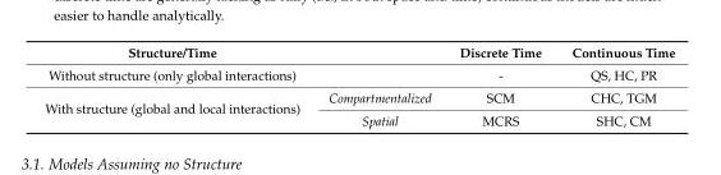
<table><thead><tr><td>Structure/Time</td><td></td><td>Discrete Time</td><td>Continuous Time</td></tr></thead><tbody><tr><td>Without structure (only global interactions)</td><td></td><td>-</td><td>QS, HC, PR</td></tr><tr><td rowspan="2">With structure (global and local interactions)</td><td>Compartmentalized</td><td>SCM</td><td>CHC, TGM</td></tr><tr><td>Spatial</td><td>MCRS</td><td>SHC, CM</td></tr></tbody></table>